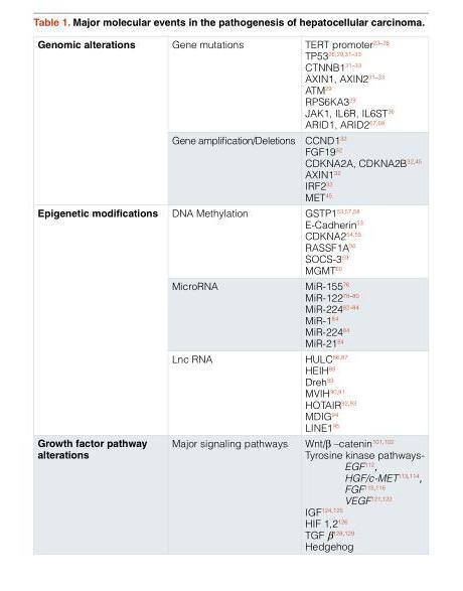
<table><tbody><tr><td rowspan="2">Genomic alterations</td><td>Gene mutations</td><td>TERT promoter<sup>23–26</sup> TP53<sup>26,29,31–33</sup> CTNNB1<sup>31–33</sup> AXIN1, AXIN2<sup>31–33</sup> ATM<sup>29</sup> RPS6KA3<sup>29</sup> JAK1, IL6R, IL6ST<sup>36</sup> ARID1, ARID2<sup>67,68</sup></td></tr><tr><td>Gene amplification/Deletions</td><td>CCND1<sup>32</sup> FGF19<sup>32</sup> CDKNA2A, CDKNA2B<sup>32,45</sup> AXIN1<sup>32</sup> IRF2<sup>32</sup> MET<sup>45</sup></td></tr><tr><td rowspan="3">Epigenetic modifications</td><td>DNA Methylation</td><td>GSTP1<sup>53,57,58</sup> E-Cadherin<sup>53</sup> CDKNA2<sup>54,55</sup> RASSF1A<sup>56</sup> SOCS-3<sup>59</sup> MGMT<sup>60</sup></td></tr><tr><td>MicroRNA</td><td>MiR-155<sup>76</sup> MiR-122<sup>78–80</sup> MiR-224<sup>82–84</sup> MiR-1<sup>84</sup> MiR-224<sup>84</sup> MiR-21<sup>84</sup></td></tr><tr><td>Lnc RNA</td><td>HULC<sup>86,87</sup> HEIH<sup>88</sup> Dreh<sup>89</sup> MVIH<sup>90,91</sup> HOTAIR<sup>92,93</sup> MDIG<sup>94</sup> LINE1<sup>95</sup></td></tr><tr><td>Growth factor pathway alterations</td><td>Major signaling pathways</td><td>Wnt/β –catenin<sup>101,102</sup> Tyrosine kinase pathways- EGF<sup>112</sup>, HGF/c-MET<sup>113,114</sup>, FGF<sup>115,116</sup> VEGF<sup>121,122</sup> IGF<sup>124,125</sup> HIF 1,2<sup>126</sup> TGF β<sup>128,129</sup> Hedgehog</td></tr></tbody></table>